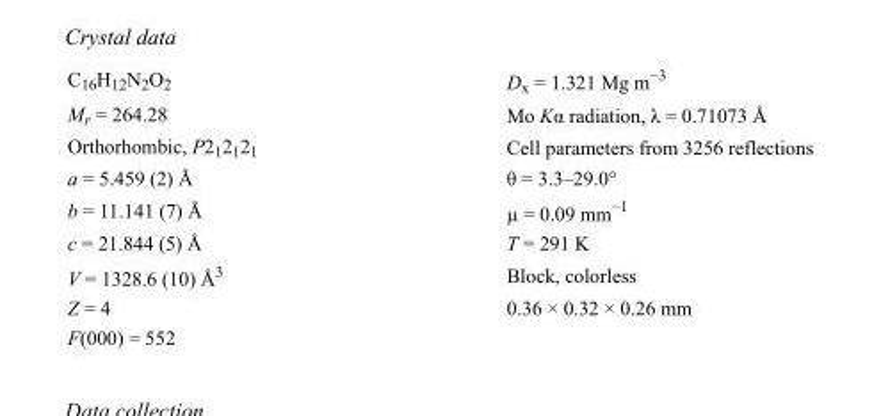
<table><tbody><tr><td>C<sub>16</sub>H<sub>12</sub>N<sub>2</sub>O<sub>2</sub></td><td>D<sub>x</sub> = 1.321 Mg m<sup>−3</sup></td></tr><tr><td>M<sub>r</sub> = 264.28</td><td>Mo Kα radiation, λ = 0.71073 Å</td></tr><tr><td>Orthorhombic, P2<sub>1</sub>2<sub>1</sub>2<sub>1</sub></td><td>Cell parameters from 3256 reflections</td></tr><tr><td>a = 5.459 (2) Å</td><td>θ = 3.3–29.0°</td></tr><tr><td>b = 11.141 (7) Å</td><td>µ = 0.09 mm<sup>−1</sup></td></tr><tr><td>c = 21.844 (5) Å</td><td>T = 291 K</td></tr><tr><td>V = 1328.6 (10) Å<sup>3</sup></td><td>Block, colorless</td></tr><tr><td>Z = 4</td><td>0.36 × 0.32 × 0.26 mm</td></tr><tr><td>F(000) = 552</td><td></td></tr></tbody></table>